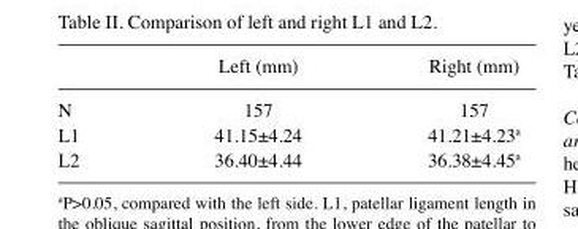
<table><thead><tr><td></td><td>Left (mm)</td><td>Right (mm)</td></tr></thead><tbody><tr><td>N</td><td>157</td><td>157</td></tr><tr><td>L1</td><td>41.15±4.24</td><td>41.21±4.23<sup>a</sup></td></tr><tr><td>L2</td><td>36.40±4.44</td><td>36.38±4.45<sup>a</sup></td></tr></tbody></table>